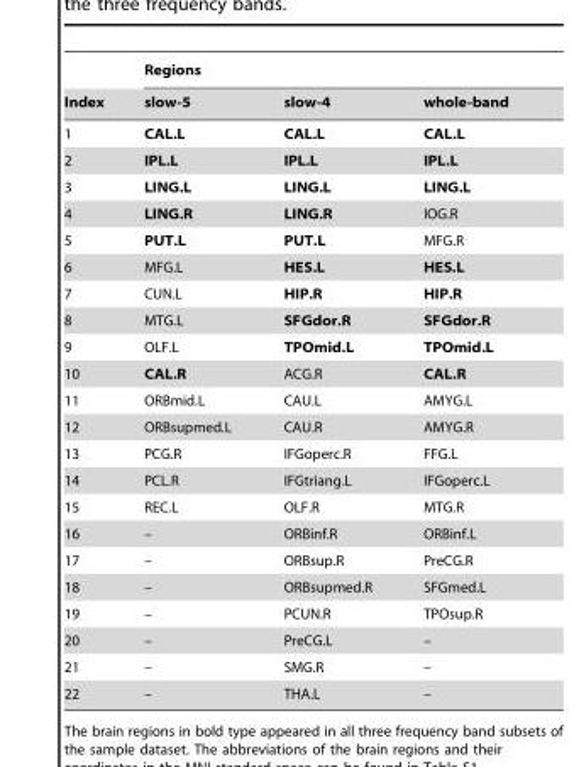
<table><thead><tr><td rowspan="2">Index</td><td colspan="3">Regions</td></tr><tr><td>slow-5</td><td>slow-4</td><td>whole-band</td></tr></thead><tbody><tr><td>1</td><td>CAL.L</td><td>CAL.L</td><td>CAL.L</td></tr><tr><td>2</td><td>IPL.L</td><td>IPL.L</td><td>IPL.L</td></tr><tr><td>3</td><td>LING.L</td><td>LING.L</td><td>LING.L</td></tr><tr><td>4</td><td>LING.R</td><td>LING.R</td><td>IOG.R</td></tr><tr><td>5</td><td>PUT.L</td><td>PUT.L</td><td>MFG.R</td></tr><tr><td>6</td><td>MFG.L</td><td>HES.L</td><td>HES.L</td></tr><tr><td>7</td><td>CUN.L</td><td>HIP.R</td><td>HIP.R</td></tr><tr><td>8</td><td>MTG.L</td><td>SFGdor.R</td><td>SFGdor.R</td></tr><tr><td>9</td><td>OLF.L</td><td>TPOmid.L</td><td>TPOmid.L</td></tr><tr><td>10</td><td>CAL.R</td><td>ACG.R</td><td>CAL.R</td></tr><tr><td>11</td><td>ORBmid.L</td><td>CAU.L</td><td>AMYG.L</td></tr><tr><td>12</td><td>ORBsupmed.L</td><td>CAU.R</td><td>AMYG.R</td></tr><tr><td>13</td><td>PCG.R</td><td>IFGoperc.R</td><td>FFG.L</td></tr><tr><td>14</td><td>PCL.R</td><td>IFGtriang.L</td><td>IFGoperc.L</td></tr><tr><td>15</td><td>REC.L</td><td>OLF.R</td><td>MTG.R</td></tr><tr><td>16</td><td>–</td><td>ORBinf.R</td><td>ORBinf.L</td></tr><tr><td>17</td><td>–</td><td>ORBsup.R</td><td>PreCG.R</td></tr><tr><td>18</td><td>–</td><td>ORBsupmed.R</td><td>SFGmed.L</td></tr><tr><td>19</td><td>–</td><td>PCUN.R</td><td>TPOsup.R</td></tr><tr><td>20</td><td>–</td><td>PreCG.L</td><td>–</td></tr><tr><td>21</td><td>–</td><td>SMG.R</td><td>–</td></tr><tr><td>22</td><td>–</td><td>THA.L</td><td>–</td></tr></tbody></table>